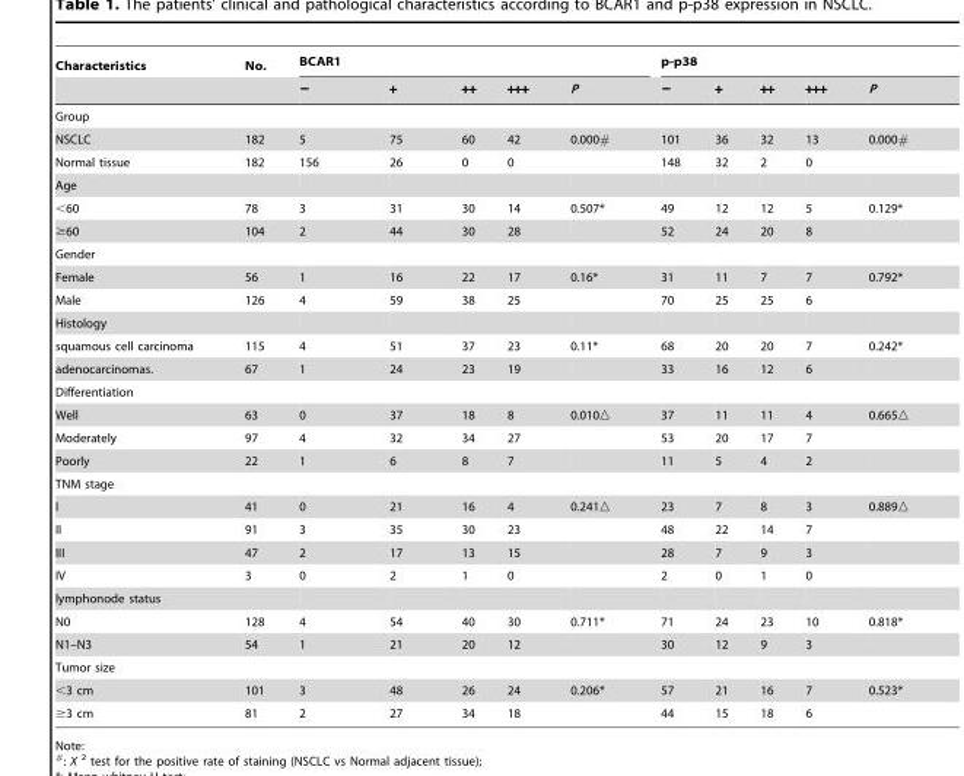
<table><thead><tr><td rowspan="2">Characteristics</td><td rowspan="2">No.</td><td colspan="5">BCAR1</td><td colspan="5">p-p38</td></tr><tr><td>−</td><td>+</td><td>++</td><td>+++</td><td>P</td><td>−</td><td>+</td><td>++</td><td>+++</td><td>P</td></tr></thead><tbody><tr><td colspan="12">Group</td></tr><tr><td>NSCLC</td><td>182</td><td>5</td><td>75</td><td>60</td><td>42</td><td>0.000#</td><td>101</td><td>36</td><td>32</td><td>13</td><td>0.000#</td></tr><tr><td>Normal tissue</td><td>182</td><td>156</td><td>26</td><td>0</td><td>0</td><td></td><td>148</td><td>32</td><td>2</td><td>0</td><td></td></tr><tr><td colspan="12">Age</td></tr><tr><td>&lt;60</td><td>78</td><td>3</td><td>31</td><td>30</td><td>14</td><td>0.507*</td><td>49</td><td>12</td><td>12</td><td>5</td><td>0.129*</td></tr><tr><td>≥60</td><td>104</td><td>2</td><td>44</td><td>30</td><td>28</td><td></td><td>52</td><td>24</td><td>20</td><td>8</td><td></td></tr><tr><td colspan="12">Gender</td></tr><tr><td>Female</td><td>56</td><td>1</td><td>16</td><td>22</td><td>17</td><td>0.16*</td><td>31</td><td>11</td><td>7</td><td>7</td><td>0.792*</td></tr><tr><td>Male</td><td>126</td><td>4</td><td>59</td><td>38</td><td>25</td><td></td><td>70</td><td>25</td><td>25</td><td>6</td><td></td></tr><tr><td colspan="12">Histology</td></tr><tr><td>squamous cell carcinoma</td><td>115</td><td>4</td><td>51</td><td>37</td><td>23</td><td>0.11*</td><td>68</td><td>20</td><td>20</td><td>7</td><td>0.242*</td></tr><tr><td>adenocarcinomas.</td><td>67</td><td>1</td><td>24</td><td>23</td><td>19</td><td></td><td>33</td><td>16</td><td>12</td><td>6</td><td></td></tr><tr><td colspan="12">Differentiation</td></tr><tr><td>Well</td><td>63</td><td>0</td><td>37</td><td>18</td><td>8</td><td>0.010▵</td><td>37</td><td>11</td><td>11</td><td>4</td><td>0.665▵</td></tr><tr><td>Moderately</td><td>97</td><td>4</td><td>32</td><td>34</td><td>27</td><td></td><td>53</td><td>20</td><td>17</td><td>7</td><td></td></tr><tr><td>Poorly</td><td>22</td><td>1</td><td>6</td><td>8</td><td>7</td><td></td><td>11</td><td>5</td><td>4</td><td>2</td><td></td></tr><tr><td colspan="12">TNM stage</td></tr><tr><td>I</td><td>41</td><td>0</td><td>21</td><td>16</td><td>4</td><td>0.241▵</td><td>23</td><td>7</td><td>8</td><td>3</td><td>0.889▵</td></tr><tr><td>II</td><td>91</td><td>3</td><td>35</td><td>30</td><td>23</td><td></td><td>48</td><td>22</td><td>14</td><td>7</td><td></td></tr><tr><td>III</td><td>47</td><td>2</td><td>17</td><td>13</td><td>15</td><td></td><td>28</td><td>7</td><td>9</td><td>3</td><td></td></tr><tr><td>IV</td><td>3</td><td>0</td><td>2</td><td>1</td><td>0</td><td></td><td>2</td><td>0</td><td>1</td><td>0</td><td></td></tr><tr><td colspan="12">lymphonode status</td></tr><tr><td>N0</td><td>128</td><td>4</td><td>54</td><td>40</td><td>30</td><td>0.711*</td><td>71</td><td>24</td><td>23</td><td>10</td><td>0.818*</td></tr><tr><td>N1–N3</td><td>54</td><td>1</td><td>21</td><td>20</td><td>12</td><td></td><td>30</td><td>12</td><td>9</td><td>3</td><td></td></tr><tr><td colspan="12">Tumor size</td></tr><tr><td>&lt;3 cm</td><td>101</td><td>3</td><td>48</td><td>26</td><td>24</td><td>0.206*</td><td>57</td><td>21</td><td>16</td><td>7</td><td>0.523*</td></tr><tr><td>≥3 cm</td><td>81</td><td>2</td><td>27</td><td>34</td><td>18</td><td></td><td>44</td><td>15</td><td>18</td><td>6</td><td></td></tr></tbody></table>